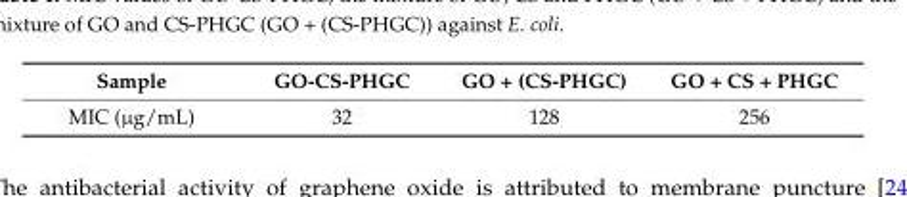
<table><thead><tr><td>Sample</td><td>GO-CS-PHGC</td><td>GO + (CS-PHGC)</td><td>GO + CS + PHGC</td></tr></thead><tbody><tr><td>MIC (µg/mL)</td><td>32</td><td>128</td><td>256</td></tr></tbody></table>